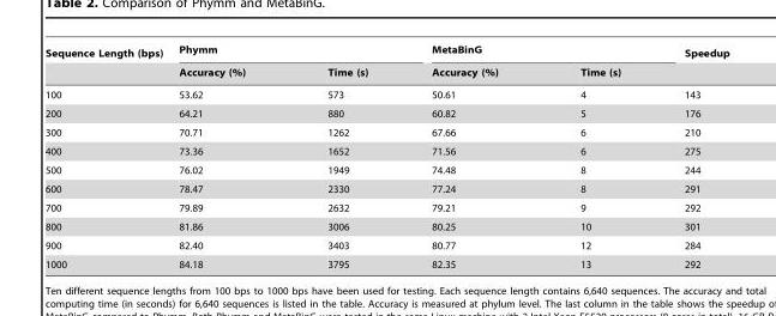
<table><thead><tr><td rowspan="2">Sequence Length (bps)</td><td colspan="2">Phymm</td><td colspan="2">MetaBinG</td><td rowspan="2">Speedup</td></tr><tr><td>Accuracy (%)</td><td>Time (s)</td><td>Accuracy (%)</td><td>Time (s)</td></tr></thead><tbody><tr><td>100</td><td>53.62</td><td>573</td><td>50.61</td><td>4</td><td>143</td></tr><tr><td>200</td><td>64.21</td><td>880</td><td>60.82</td><td>5</td><td>176</td></tr><tr><td>300</td><td>70.71</td><td>1262</td><td>67.66</td><td>6</td><td>210</td></tr><tr><td>400</td><td>73.36</td><td>1652</td><td>71.56</td><td>6</td><td>275</td></tr><tr><td>500</td><td>76.02</td><td>1949</td><td>74.48</td><td>8</td><td>244</td></tr><tr><td>600</td><td>78.47</td><td>2330</td><td>77.24</td><td>8</td><td>291</td></tr><tr><td>700</td><td>79.89</td><td>2632</td><td>79.21</td><td>9</td><td>292</td></tr><tr><td>800</td><td>81.86</td><td>3006</td><td>80.25</td><td>10</td><td>301</td></tr><tr><td>900</td><td>82.40</td><td>3403</td><td>80.77</td><td>12</td><td>284</td></tr><tr><td>1000</td><td>84.18</td><td>3795</td><td>82.35</td><td>13</td><td>292</td></tr></tbody></table>